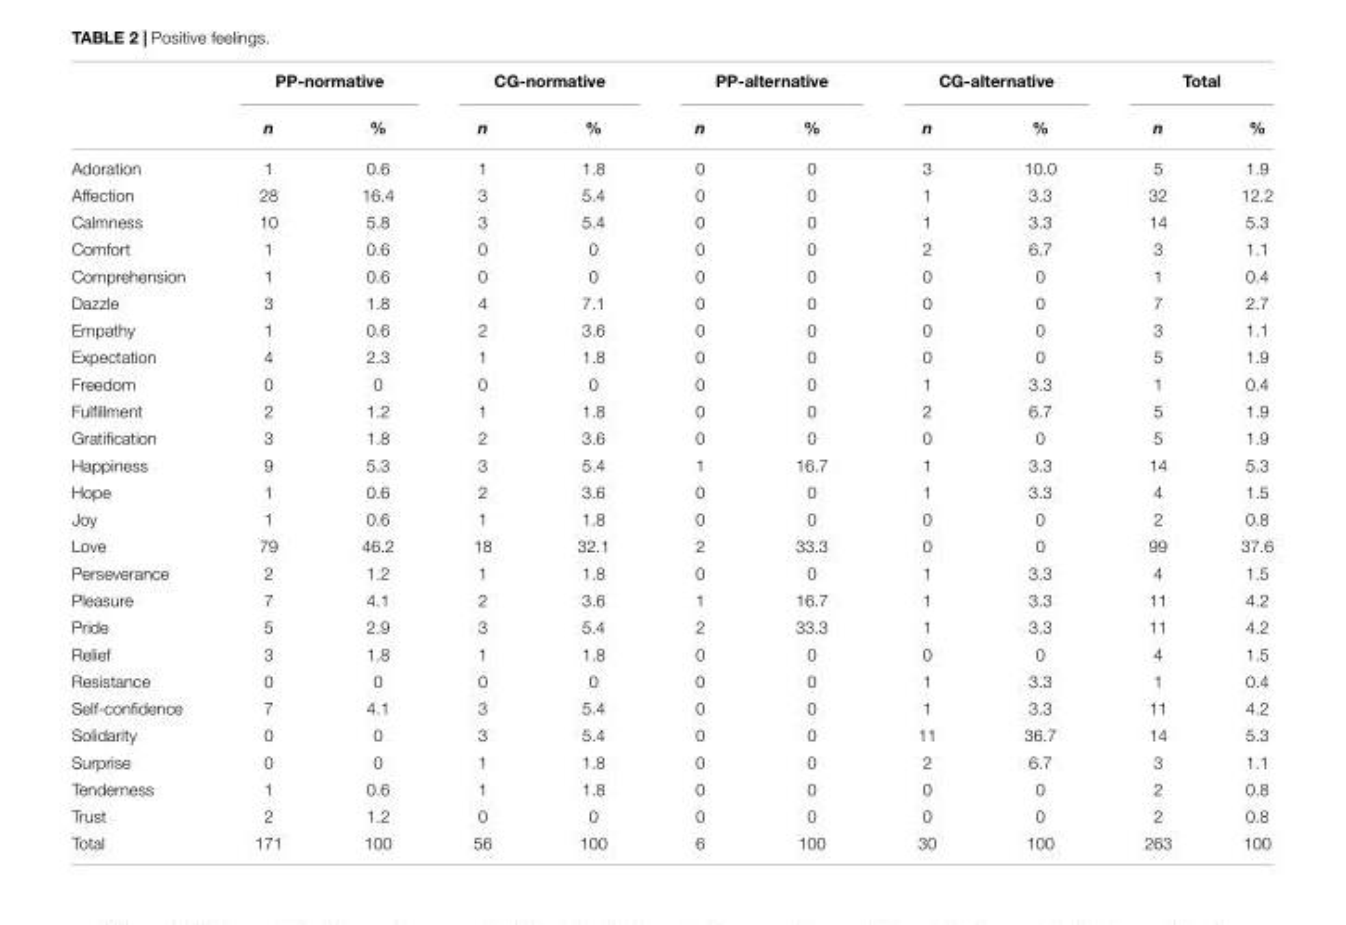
<table><thead><tr><td rowspan="2"></td><td colspan="2">PP-normative</td><td colspan="2">CG-normative</td><td colspan="2">PP-alternative</td><td colspan="2">CG-alternative</td><td colspan="2">Total</td></tr><tr><td>n</td><td>%</td><td>n</td><td>%</td><td>n</td><td>%</td><td>n</td><td>%</td><td>n</td><td>%</td></tr></thead><tbody><tr><td>Adoration</td><td>1</td><td>0.6</td><td>1</td><td>1.8</td><td>0</td><td>0</td><td>3</td><td>10.0</td><td>5</td><td>1.9</td></tr><tr><td>Affection</td><td>28</td><td>16.4</td><td>3</td><td>5.4</td><td>0</td><td>0</td><td>1</td><td>3.3</td><td>32</td><td>12.2</td></tr><tr><td>Calmness</td><td>10</td><td>5.8</td><td>3</td><td>5.4</td><td>0</td><td>0</td><td>1</td><td>3.3</td><td>14</td><td>5.3</td></tr><tr><td>Comfort</td><td>1</td><td>0.6</td><td>0</td><td>0</td><td>0</td><td>0</td><td>2</td><td>6.7</td><td>3</td><td>1.1</td></tr><tr><td>Comprehension</td><td>1</td><td>0.6</td><td>0</td><td>0</td><td>0</td><td>0</td><td>0</td><td>0</td><td>1</td><td>0.4</td></tr><tr><td>Dazzle</td><td>3</td><td>1.8</td><td>4</td><td>7.1</td><td>0</td><td>0</td><td>0</td><td>0</td><td>7</td><td>2.7</td></tr><tr><td>Empathy</td><td>1</td><td>0.6</td><td>2</td><td>3.6</td><td>0</td><td>0</td><td>0</td><td>0</td><td>3</td><td>1.1</td></tr><tr><td>Expectation</td><td>4</td><td>2.3</td><td>1</td><td>1.8</td><td>0</td><td>0</td><td>0</td><td>0</td><td>5</td><td>1.9</td></tr><tr><td>Freedom</td><td>0</td><td>0</td><td>0</td><td>0</td><td>0</td><td>0</td><td>1</td><td>3.3</td><td>1</td><td>0.4</td></tr><tr><td>Fulfillment</td><td>2</td><td>1.2</td><td>1</td><td>1.8</td><td>0</td><td>0</td><td>2</td><td>6.7</td><td>5</td><td>1.9</td></tr><tr><td>Gratification</td><td>3</td><td>1.8</td><td>2</td><td>3.6</td><td>0</td><td>0</td><td>0</td><td>0</td><td>5</td><td>1.9</td></tr><tr><td>Happiness</td><td>9</td><td>5.3</td><td>3</td><td>5.4</td><td>1</td><td>16.7</td><td>1</td><td>3.3</td><td>14</td><td>5.3</td></tr><tr><td>Hope</td><td>1</td><td>0.6</td><td>2</td><td>3.6</td><td>0</td><td>0</td><td>1</td><td>3.3</td><td>4</td><td>1.5</td></tr><tr><td>Joy</td><td>1</td><td>0.6</td><td>1</td><td>1.8</td><td>0</td><td>0</td><td>0</td><td>0</td><td>2</td><td>0.8</td></tr><tr><td>Love</td><td>79</td><td>46.2</td><td>18</td><td>32.1</td><td>2</td><td>33.3</td><td>0</td><td>0</td><td>99</td><td>37.6</td></tr><tr><td>Perseverance</td><td>2</td><td>1.2</td><td>1</td><td>1.8</td><td>0</td><td>0</td><td>1</td><td>3.3</td><td>4</td><td>1.5</td></tr><tr><td>Pleasure</td><td>7</td><td>4.1</td><td>2</td><td>3.6</td><td>1</td><td>16.7</td><td>1</td><td>3.3</td><td>11</td><td>4.2</td></tr><tr><td>Pride</td><td>5</td><td>2.9</td><td>3</td><td>5.4</td><td>2</td><td>33.3</td><td>1</td><td>3.3</td><td>11</td><td>4.2</td></tr><tr><td>Relief</td><td>3</td><td>1.8</td><td>1</td><td>1.8</td><td>0</td><td>0</td><td>0</td><td>0</td><td>4</td><td>1.5</td></tr><tr><td>Resistance</td><td>0</td><td>0</td><td>0</td><td>0</td><td>0</td><td>0</td><td>1</td><td>3.3</td><td>1</td><td>0.4</td></tr><tr><td>Self-confidence</td><td>7</td><td>4.1</td><td>3</td><td>5.4</td><td>0</td><td>0</td><td>1</td><td>3.3</td><td>11</td><td>4.2</td></tr><tr><td>Solidarity</td><td>0</td><td>0</td><td>3</td><td>5.4</td><td>0</td><td>0</td><td>11</td><td>36.7</td><td>14</td><td>5.3</td></tr><tr><td>Surprise</td><td>0</td><td>0</td><td>1</td><td>1.8</td><td>0</td><td>0</td><td>2</td><td>6.7</td><td>3</td><td>1.1</td></tr><tr><td>Tenderness</td><td>1</td><td>0.6</td><td>1</td><td>1.8</td><td>0</td><td>0</td><td>0</td><td>0</td><td>2</td><td>0.8</td></tr><tr><td>Trust</td><td>2</td><td>1.2</td><td>0</td><td>0</td><td>0</td><td>0</td><td>0</td><td>0</td><td>2</td><td>0.8</td></tr><tr><td>Total</td><td>171</td><td>100</td><td>56</td><td>100</td><td>6</td><td>100</td><td>30</td><td>100</td><td>263</td><td>100</td></tr></tbody></table>